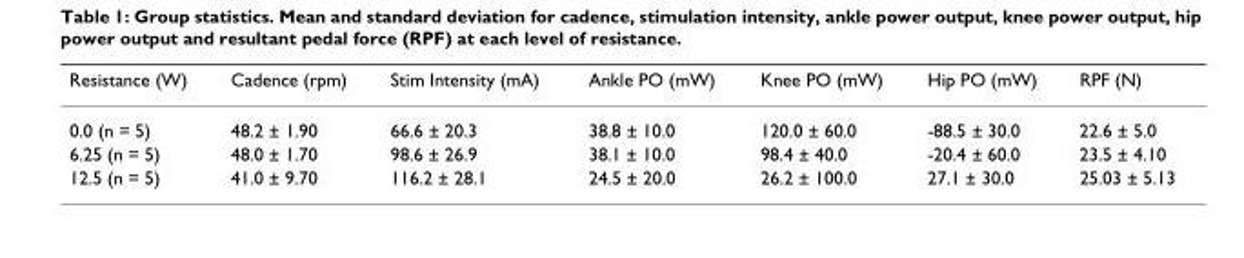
<table><thead><tr><td>Resistance (W)</td><td>Cadence (rpm)</td><td>Stim Intensity (mA)</td><td>Ankle PO (mW)</td><td>Knee PO (mW)</td><td>Hip PO (mW)</td><td>RPF (N)</td></tr></thead><tbody><tr><td>0.0 (n = 5)</td><td>48.2 ± 1.90</td><td>66.6 ± 20.3</td><td>38.8 ± 10.0</td><td>120.0 ± 60.0</td><td>-88.5 ± 30.0</td><td>22.6 ± 5.0</td></tr><tr><td>6.25 (n = 5)</td><td>48.0 ± 1.70</td><td>98.6 ± 26.9</td><td>38.1 ± 10.0</td><td>98.4 ± 40.0</td><td>-20.4 ± 60.0</td><td>23.5 ± 4.10</td></tr><tr><td>12.5 (n = 5)</td><td>41.0 ± 9.70</td><td>116.2 ± 28.1</td><td>24.5 ± 20.0</td><td>26.2 ± 100.0</td><td>27.1 ± 30.0</td><td>25.03 ± 5.13</td></tr></tbody></table>